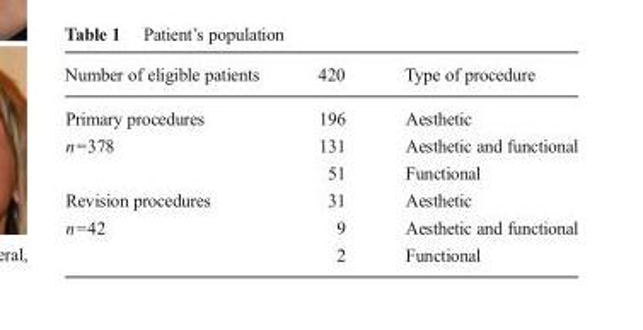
<table><thead><tr><td>Number of eligible patients</td><td>420</td><td>Type of procedure</td></tr></thead><tbody><tr><td>Primary procedures</td><td>196</td><td>Aesthetic</td></tr><tr><td rowspan="2">n=378</td><td>131</td><td>Aesthetic and functional</td></tr><tr><td>51</td><td>Functional</td></tr><tr><td>Revision procedures</td><td>31</td><td>Aesthetic</td></tr><tr><td rowspan="2">n=42</td><td>9</td><td>Aesthetic and functional</td></tr><tr><td>2</td><td>Functional</td></tr></tbody></table>